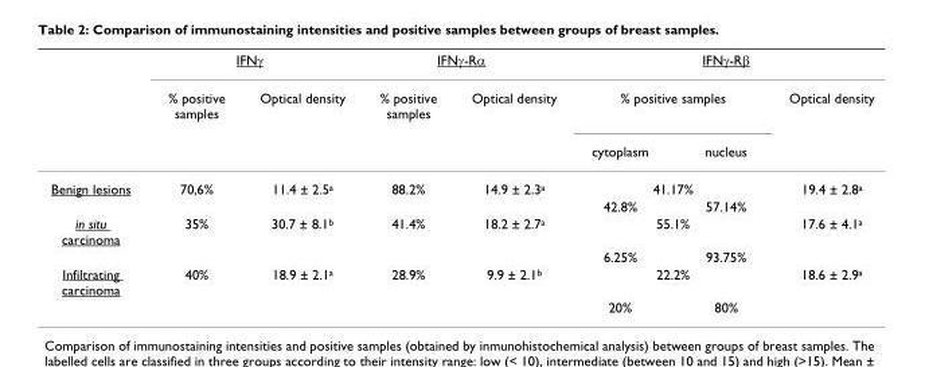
<table><thead><tr><td rowspan="3"></td><td colspan="2">IFNγ</td><td colspan="2">IFNγ-Rα</td><td colspan="3">IFNγ-Rβ</td></tr><tr><td rowspan="2">% positive samples</td><td rowspan="2">Optical density</td><td rowspan="2">% positive samples</td><td rowspan="2">Optical density</td><td colspan="2">% positive samples</td><td rowspan="2">Optical density</td></tr><tr><td>cytoplasm</td><td>nucleus</td></tr></thead><tbody><tr><td rowspan="2">Benign lesions</td><td>70,6%</td><td>11.4 ± 2.5<sup>a</sup></td><td>88.2%</td><td>14.9 ± 2.3<sup>a</sup></td><td colspan="2">41.17%</td><td>19.4 ± 2.8<sup>a</sup></td></tr><tr><td></td><td></td><td></td><td></td><td>42.8%</td><td>57.14%</td><td></td></tr><tr><td rowspan="2">in situ carcinoma</td><td>35%</td><td>30.7 ± 8.1<sup>b</sup></td><td>41.4%</td><td>18.2 ± 2.7<sup>a</sup></td><td colspan="2">55.1%</td><td>17.6 ± 4.1<sup>a</sup></td></tr><tr><td></td><td></td><td></td><td></td><td>6.25%</td><td>93.75%</td><td></td></tr><tr><td rowspan="2">Infiltrating carcinoma</td><td>40%</td><td>18.9 ± 2.1<sup>a</sup></td><td>28.9%</td><td>9.9 ± 2.1<sup>b</sup></td><td colspan="2">22.2%</td><td>18.6 ± 2.9<sup>a</sup></td></tr><tr><td></td><td></td><td></td><td></td><td>20%</td><td>80%</td><td></td></tr></tbody></table>